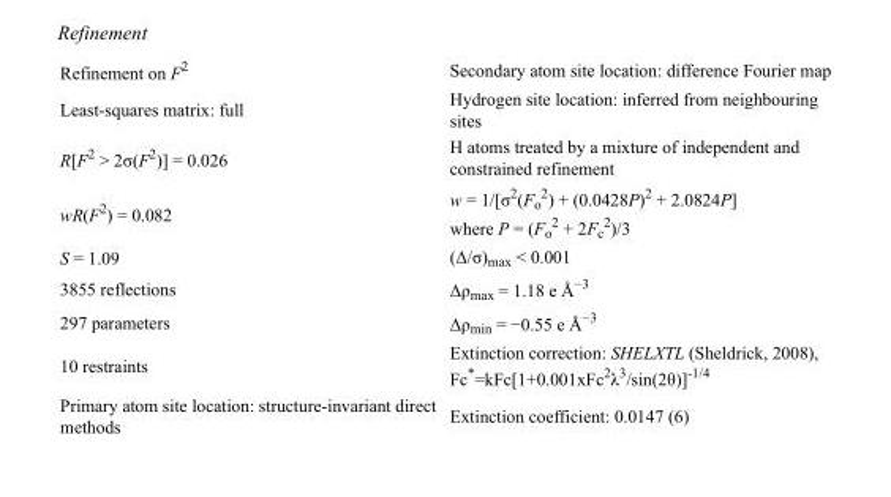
<table><tbody><tr><td>Refinement on F<sup>2</sup></td><td>Secondary atom site location: difference Fourier map</td></tr><tr><td>Least-squares matrix: full</td><td>Hydrogen site location: inferred from neighbouring sites</td></tr><tr><td>R[F<sup>2</sup> &gt; 2σ(F<sup>2</sup>)] = 0.026</td><td>H atoms treated by a mixture of independent and constrained refinement</td></tr><tr><td>wR(F<sup>2</sup>) = 0.082</td><td>w = 1/[σ<sup>2</sup>(F<sub>o</sub> <sup>2</sup>) + (0.0428P)<sup>2</sup> + 2.0824P] where P = (F<sub>o</sub> <sup>2</sup> + 2F<sub>c</sub> <sup>2</sup>)/3</td></tr><tr><td>S = 1.09</td><td>(Δ/σ)<sub>max</sub> &lt; 0.001</td></tr><tr><td>3855 reflections</td><td>Δρ<sub>max</sub> = 1.18 e Å<sup>−3</sup></td></tr><tr><td>297 parameters</td><td>Δρ<sub>min</sub> = −0.55 e Å<sup>−3</sup></td></tr><tr><td>10 restraints</td><td>Extinction correction: SHELXTL (Sheldrick, 2008), Fc*=kFc[1+0.001xFc<sup>2</sup>λ<sup>3</sup>/sin(2θ)]<sup>-1/4</sup></td></tr><tr><td>Primary atom site location: structure-invariant direct methods</td><td>Extinction coefficient: 0.0147 (6)</td></tr></tbody></table>